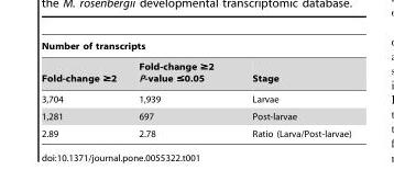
<table><thead><tr><td colspan="3">Number of transcripts</td></tr><tr><td>Fold-change ≥2</td><td>Fold-change ≥2 P-value ≤0.05</td><td>Stage</td></tr></thead><tbody><tr><td>3,704</td><td>1,939</td><td>Larvae</td></tr><tr><td>1,281</td><td>697</td><td>Post-larvae</td></tr><tr><td>2.89</td><td>2.78</td><td>Ratio (Larva/Post-larvae)</td></tr></tbody></table>